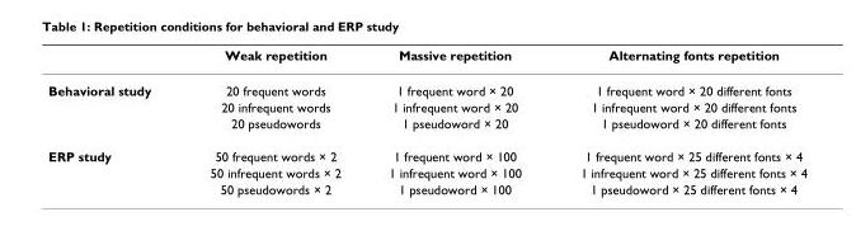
<table><thead><tr><td></td><td>Weak repetition</td><td>Massive repetition</td><td>Alternating fonts repetition</td></tr></thead><tbody><tr><td rowspan="3">Behavioral study</td><td>20 frequent words</td><td>1 frequent word × 20</td><td>1 frequent word × 20 different fonts</td></tr><tr><td>20 infrequent words</td><td>1 infrequent word × 20</td><td>1 infrequent word × 20 different fonts</td></tr><tr><td>20 pseudowords</td><td>1 pseudoword × 20</td><td>1 pseudoword × 20 different fonts</td></tr><tr><td rowspan="3">ERP study</td><td>50 frequent words × 2</td><td>1 frequent word × 100</td><td>1 frequent word × 25 different fonts × 4</td></tr><tr><td>50 infrequent words × 2</td><td>1 infrequent word × 100</td><td>1 infrequent word × 25 different fonts × 4</td></tr><tr><td>50 pseudowords × 2</td><td>1 pseudoword × 100</td><td>1 pseudoword × 25 different fonts × 4</td></tr></tbody></table>